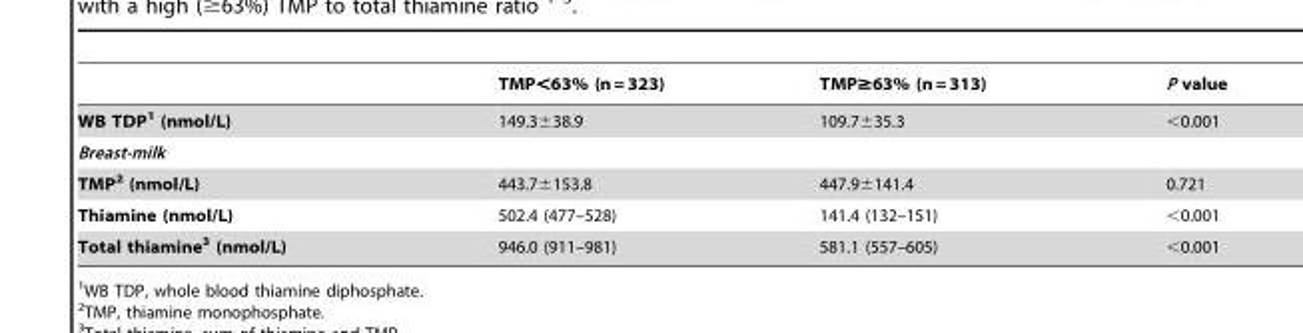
<table><thead><tr><td></td><td>TMP&lt;63% (n = 323)</td><td>TMP≥63% (n = 313)</td><td>P value</td></tr></thead><tbody><tr><td>WB TDP1 (nmol/L)</td><td>149.3±38.9</td><td>109.7±35.3</td><td>&lt;0.001</td></tr><tr><td colspan="4">Breast-milk</td></tr><tr><td>TMP2 (nmol/L)</td><td>443.7±153.8</td><td>447.9±141.4</td><td>0.721</td></tr><tr><td>Thiamine (nmol/L)</td><td>502.4 (477–528)</td><td>141.4 (132–151)</td><td>&lt;0.001</td></tr><tr><td>Total thiamine3 (nmol/L)</td><td>946.0 (911–981)</td><td>581.1 (557–605)</td><td>&lt;0.001</td></tr></tbody></table>